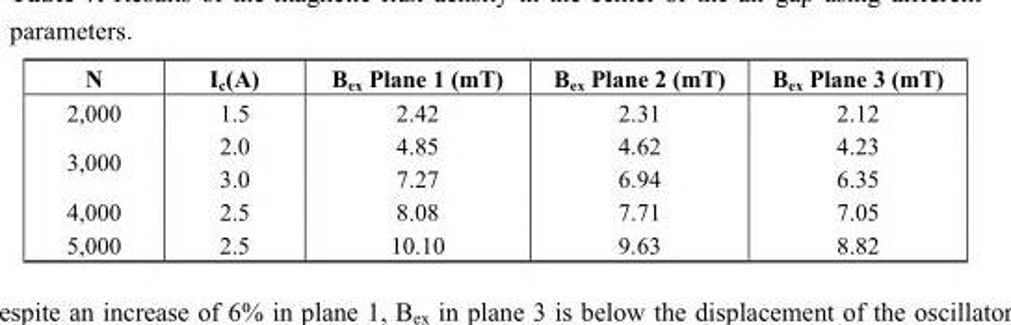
<table><thead><tr><td>N</td><td>I<sub>c</sub>(A)</td><td>B<sub>ex</sub> Plane 1 (mT)</td><td>B<sub>ex</sub> Plane 2 (mT)</td><td>B<sub>ex</sub> Plane 3 (mT)</td></tr></thead><tbody><tr><td>2,000</td><td>1.5</td><td>2.42</td><td>2.31</td><td>2.12</td></tr><tr><td rowspan="2">3,000</td><td>2.0</td><td>4.85</td><td>4.62</td><td>4.23</td></tr><tr><td>3.0</td><td>7.27</td><td>6.94</td><td>6.35</td></tr><tr><td>4,000</td><td>2.5</td><td>8.08</td><td>7.71</td><td>7.05</td></tr><tr><td>5,000</td><td>2.5</td><td>10.10</td><td>9.63</td><td>8.82</td></tr></tbody></table>